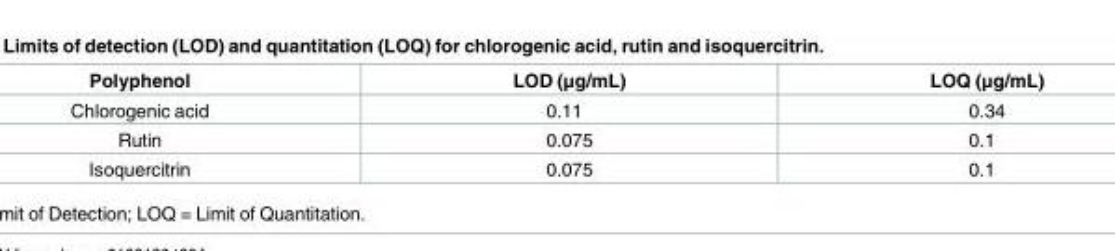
<table><thead><tr><td>Polyphenol</td><td>LOD (μg/mL)</td><td>LOQ (μg/mL)</td></tr></thead><tbody><tr><td>Chlorogenic acid</td><td>0.11</td><td>0.34</td></tr><tr><td>Rutin</td><td>0.075</td><td>0.1</td></tr><tr><td>Isoquercitrin</td><td>0.075</td><td>0.1</td></tr></tbody></table>